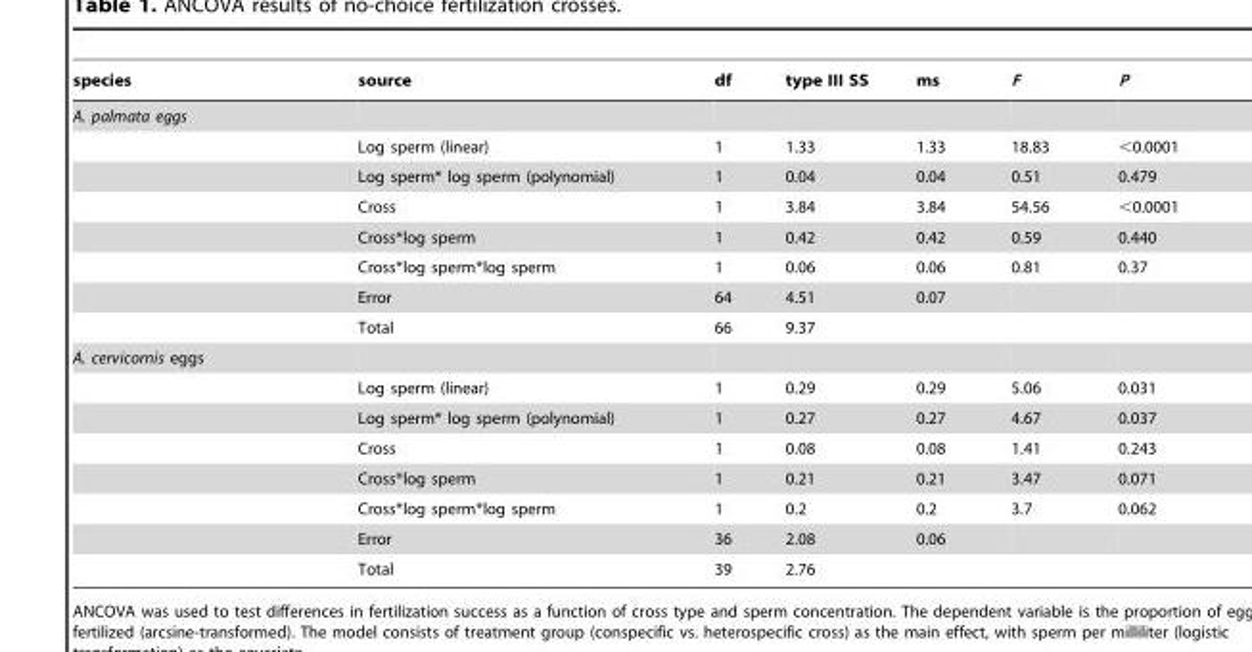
<table><thead><tr><td>species</td><td>source</td><td>df</td><td>type III SS</td><td>ms</td><td>F</td><td>P</td></tr></thead><tbody><tr><td colspan="7">A. palmata eggs</td></tr><tr><td></td><td>Log sperm (linear)</td><td>1</td><td>1.33</td><td>1.33</td><td>18.83</td><td>&lt;0.0001</td></tr><tr><td></td><td>Log sperm* log sperm (polynomial)</td><td>1</td><td>0.04</td><td>0.04</td><td>0.51</td><td>0.479</td></tr><tr><td></td><td>Cross</td><td>1</td><td>3.84</td><td>3.84</td><td>54.56</td><td>&lt;0.0001</td></tr><tr><td></td><td>Cross*log sperm</td><td>1</td><td>0.42</td><td>0.42</td><td>0.59</td><td>0.440</td></tr><tr><td></td><td>Cross*log sperm*log sperm</td><td>1</td><td>0.06</td><td>0.06</td><td>0.81</td><td>0.37</td></tr><tr><td></td><td>Error</td><td>64</td><td>4.51</td><td>0.07</td><td></td><td></td></tr><tr><td></td><td>Total</td><td>66</td><td>9.37</td><td></td><td></td><td></td></tr><tr><td colspan="7">A. cervicornis eggs</td></tr><tr><td></td><td>Log sperm (linear)</td><td>1</td><td>0.29</td><td>0.29</td><td>5.06</td><td>0.031</td></tr><tr><td></td><td>Log sperm* log sperm (polynomial)</td><td>1</td><td>0.27</td><td>0.27</td><td>4.67</td><td>0.037</td></tr><tr><td></td><td>Cross</td><td>1</td><td>0.08</td><td>0.08</td><td>1.41</td><td>0.243</td></tr><tr><td></td><td>Cross*log sperm</td><td>1</td><td>0.21</td><td>0.21</td><td>3.47</td><td>0.071</td></tr><tr><td></td><td>Cross*log sperm*log sperm</td><td>1</td><td>0.2</td><td>0.2</td><td>3.7</td><td>0.062</td></tr><tr><td></td><td>Error</td><td>36</td><td>2.08</td><td>0.06</td><td></td><td></td></tr><tr><td></td><td>Total</td><td>39</td><td>2.76</td><td></td><td></td><td></td></tr></tbody></table>